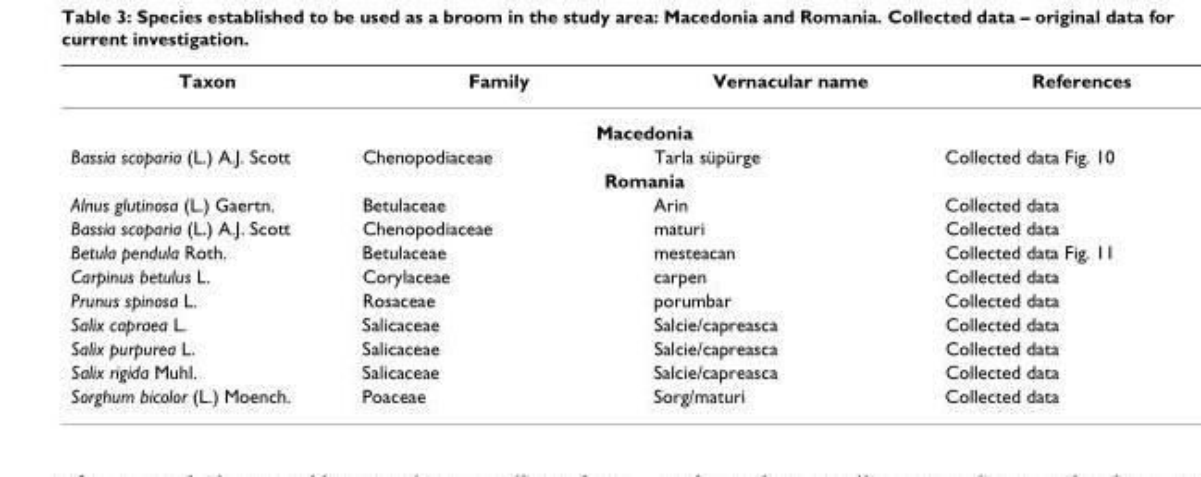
<table><thead><tr><td>Taxon</td><td>Family</td><td>Vernacular name</td><td>References</td></tr></thead><tbody><tr><td colspan="4">Macedonia</td></tr><tr><td>Bassia scoparia (L.) A.J. Scott</td><td>Chenopodiaceae</td><td>Tarla süpürge</td><td>Collected data Fig. 10</td></tr><tr><td colspan="4">Romania</td></tr><tr><td>Alnus glutinosa (L.) Gaertn.</td><td>Betulaceae</td><td>Arin</td><td>Collected data</td></tr><tr><td>Bassia scoparia (L.) A.J. Scott</td><td>Chenopodiaceae</td><td>maturi</td><td>Collected data</td></tr><tr><td>Betula pendula Roth.</td><td>Betulaceae</td><td>mesteacan</td><td>Collected data Fig. 11</td></tr><tr><td>Carpinus betulus L.</td><td>Corylaceae</td><td>carpen</td><td>Collected data</td></tr><tr><td>Prunus spinosa L.</td><td>Rosaceae</td><td>porumbar</td><td>Collected data</td></tr><tr><td>Salix capraea L.</td><td>Salicaceae</td><td>Salcie/capreasca</td><td>Collected data</td></tr><tr><td>Salix purpurea L.</td><td>Salicaceae</td><td>Salcie/capreasca</td><td>Collected data</td></tr><tr><td>Salix rigida Muhl.</td><td>Salicaceae</td><td>Salcie/capreasca</td><td>Collected data</td></tr><tr><td>Sorghum bicolor (L.) Moench.</td><td>Poaceae</td><td>Sorg/maturi</td><td>Collected data</td></tr></tbody></table>